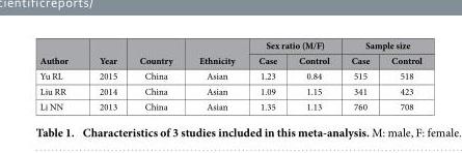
<table><thead><tr><td rowspan="2">Author</td><td rowspan="2">Year</td><td rowspan="2">Country</td><td rowspan="2">Ethnicity</td><td colspan="2">Sex ratio (M/F)</td><td colspan="2">Sample size</td></tr><tr><td>Case</td><td>Control</td><td>Case</td><td>Control</td></tr></thead><tbody><tr><td>Yu RL</td><td>2015</td><td>China</td><td>Asian</td><td>1.23</td><td>0.84</td><td>515</td><td>518</td></tr><tr><td>Liu RR</td><td>2014</td><td>China</td><td>Asian</td><td>1.09</td><td>1.15</td><td>341</td><td>423</td></tr><tr><td>Li NN</td><td>2013</td><td>China</td><td>Asian</td><td>1.35</td><td>1.13</td><td>760</td><td>708</td></tr></tbody></table>